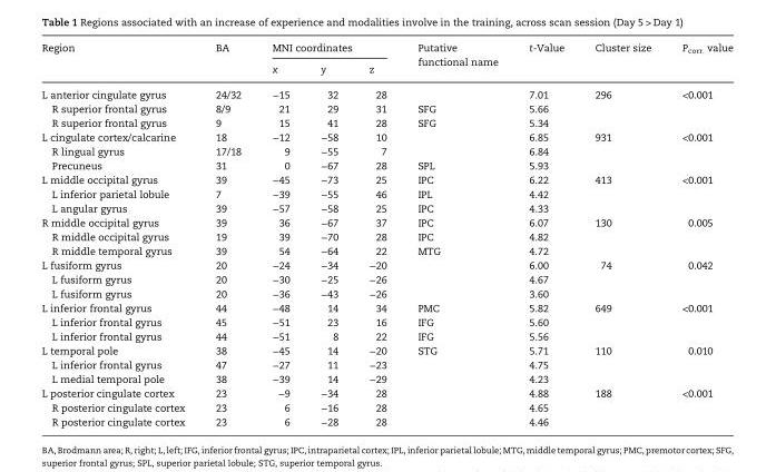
<table><thead><tr><td rowspan="2">Region</td><td rowspan="2">BA</td><td colspan="3">MNI coordinates</td><td rowspan="2">Putative functional name</td><td rowspan="2">t-Value</td><td rowspan="2">Cluster size</td><td rowspan="2">P<sub>corr.</sub> value</td></tr><tr><td>x</td><td>y</td><td>z</td></tr></thead><tbody><tr><td>L anterior cingulate gyrus</td><td>24/32</td><td>−15</td><td>32</td><td>28</td><td></td><td>7.01</td><td>296</td><td>&lt;0.001</td></tr><tr><td>R superior frontal gyrus</td><td>8/9</td><td>21</td><td>29</td><td>31</td><td>SFG</td><td>5.66</td><td></td><td></td></tr><tr><td>R superior frontal gyrus</td><td>9</td><td>15</td><td>41</td><td>28</td><td>SFG</td><td>5.34</td><td></td><td></td></tr><tr><td>L cingulate cortex/calcarine</td><td>18</td><td>−12</td><td>−58</td><td>10</td><td></td><td>6.85</td><td>931</td><td>&lt;0.001</td></tr><tr><td>R lingual gyrus</td><td>17/18</td><td>9</td><td>−55</td><td>7</td><td></td><td>6.84</td><td></td><td></td></tr><tr><td>Precuneus</td><td>31</td><td>0</td><td>−67</td><td>28</td><td>SPL</td><td>5.93</td><td></td><td></td></tr><tr><td>L middle occipital gyrus</td><td>39</td><td>−45</td><td>−73</td><td>25</td><td>IPC</td><td>6.22</td><td>413</td><td>&lt;0.001</td></tr><tr><td>L inferior parietal lobule</td><td>7</td><td>−39</td><td>−55</td><td>46</td><td>IPL</td><td>4.42</td><td></td><td></td></tr><tr><td>L angular gyrus</td><td>39</td><td>−57</td><td>−58</td><td>25</td><td>IPC</td><td>4.33</td><td></td><td></td></tr><tr><td>R middle occipital gyrus</td><td>39</td><td>36</td><td>−67</td><td>37</td><td>IPC</td><td>6.07</td><td>130</td><td>0.005</td></tr><tr><td>R middle occipital gyrus</td><td>19</td><td>39</td><td>−70</td><td>28</td><td>IPC</td><td>4.82</td><td></td><td></td></tr><tr><td>R middle temporal gyrus</td><td>39</td><td>54</td><td>−64</td><td>22</td><td>MTG</td><td>4.72</td><td></td><td></td></tr><tr><td>L fusiform gyrus</td><td>20</td><td>−24</td><td>−34</td><td>−20</td><td></td><td>6.00</td><td>74</td><td>0.042</td></tr><tr><td>L fusiform gyrus</td><td>20</td><td>−30</td><td>−25</td><td>−26</td><td></td><td>4.67</td><td></td><td></td></tr><tr><td>L fusiform gyrus</td><td>20</td><td>−36</td><td>−43</td><td>−26</td><td></td><td>3.60</td><td></td><td></td></tr><tr><td>L inferior frontal gyrus</td><td>44</td><td>−48</td><td>14</td><td>34</td><td>PMC</td><td>5.82</td><td>649</td><td>&lt;0.001</td></tr><tr><td>L inferior frontal gyrus</td><td>45</td><td>−51</td><td>23</td><td>16</td><td>IFG</td><td>5.60</td><td></td><td></td></tr><tr><td>L inferior frontal gyrus</td><td>44</td><td>−51</td><td>8</td><td>22</td><td>IFG</td><td>5.56</td><td></td><td></td></tr><tr><td>L temporal pole</td><td>38</td><td>−45</td><td>14</td><td>−20</td><td>STG</td><td>5.71</td><td>110</td><td>0.010</td></tr><tr><td>L inferior frontal gyrus</td><td>47</td><td>−27</td><td>11</td><td>−23</td><td></td><td>4.75</td><td></td><td></td></tr><tr><td>L medial temporal pole</td><td>38</td><td>−39</td><td>14</td><td>−29</td><td></td><td>4.23</td><td></td><td></td></tr><tr><td>L posterior cingulate cortex</td><td>23</td><td>−9</td><td>−34</td><td>28</td><td></td><td>4.88</td><td>188</td><td>&lt;0.001</td></tr><tr><td>R posterior cingulate cortex</td><td>23</td><td>6</td><td>−16</td><td>28</td><td></td><td>4.65</td><td></td><td></td></tr><tr><td>R posterior cingulate cortex</td><td>23</td><td>6</td><td>−28</td><td>28</td><td></td><td>4.46</td><td></td><td></td></tr></tbody></table>